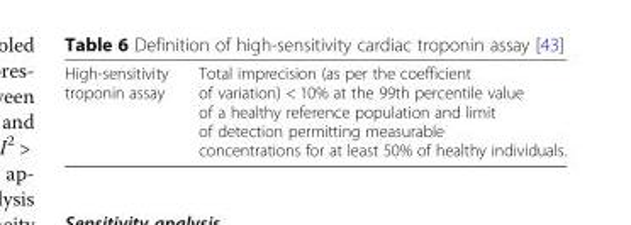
<table><tbody><tr><td>High-sensitivity troponin assay</td><td>Total imprecision (as per the coefficient of variation) &lt; 10% at the 99th percentile value of a healthy reference population and limit of detection permitting measurable concentrations for at least 50% of healthy individuals.</td></tr></tbody></table>